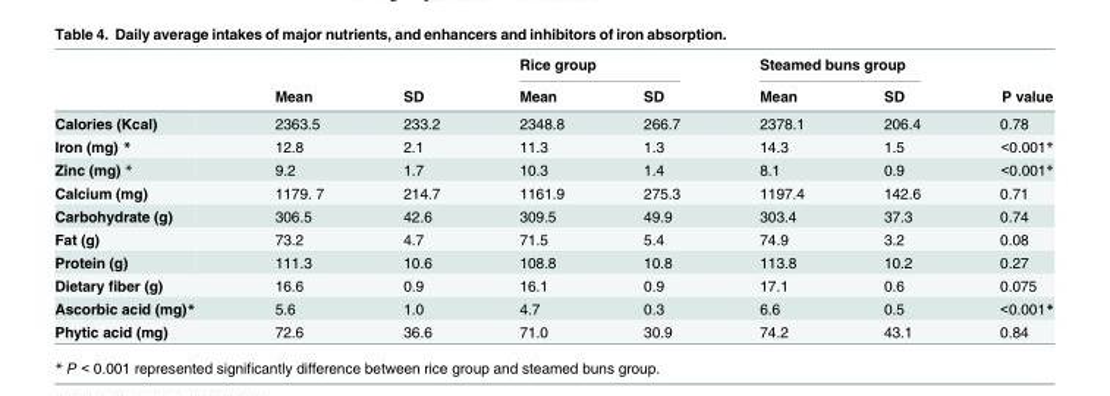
<table><thead><tr><td rowspan="2"></td><td rowspan="2">Mean</td><td rowspan="2">SD</td><td colspan="2">Rice group</td><td colspan="2">Steamed buns group</td><td rowspan="2">P value</td></tr><tr><td>Mean</td><td>SD</td><td>Mean</td><td>SD</td></tr></thead><tbody><tr><td>Calories (Kcal)</td><td>2363.5</td><td>233.2</td><td>2348.8</td><td>266.7</td><td>2378.1</td><td>206.4</td><td>0.78</td></tr><tr><td>Iron (mg) *</td><td>12.8</td><td>2.1</td><td>11.3</td><td>1.3</td><td>14.3</td><td>1.5</td><td>&lt;0.001*</td></tr><tr><td>Zinc (mg) *</td><td>9.2</td><td>1.7</td><td>10.3</td><td>1.4</td><td>8.1</td><td>0.9</td><td>&lt;0.001*</td></tr><tr><td>Calcium (mg)</td><td>1179. 7</td><td>214.7</td><td>1161.9</td><td>275.3</td><td>1197.4</td><td>142.6</td><td>0.71</td></tr><tr><td>Carbohydrate (g)</td><td>306.5</td><td>42.6</td><td>309.5</td><td>49.9</td><td>303.4</td><td>37.3</td><td>0.74</td></tr><tr><td>Fat (g)</td><td>73.2</td><td>4.7</td><td>71.5</td><td>5.4</td><td>74.9</td><td>3.2</td><td>0.08</td></tr><tr><td>Protein (g)</td><td>111.3</td><td>10.6</td><td>108.8</td><td>10.8</td><td>113.8</td><td>10.2</td><td>0.27</td></tr><tr><td>Dietary fiber (g)</td><td>16.6</td><td>0.9</td><td>16.1</td><td>0.9</td><td>17.1</td><td>0.6</td><td>0.075</td></tr><tr><td>Ascorbic acid (mg)*</td><td>5.6</td><td>1.0</td><td>4.7</td><td>0.3</td><td>6.6</td><td>0.5</td><td>&lt;0.001*</td></tr><tr><td>Phytic acid (mg)</td><td>72.6</td><td>36.6</td><td>71.0</td><td>30.9</td><td>74.2</td><td>43.1</td><td>0.84</td></tr></tbody></table>